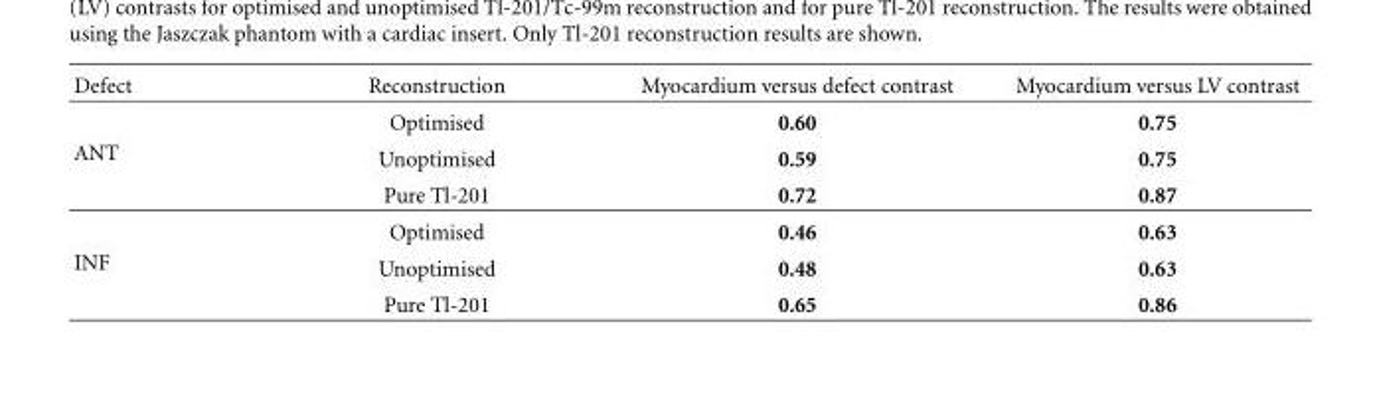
<table><thead><tr><td>Defect</td><td>Reconstruction</td><td>Myocardium versus defect contrast</td><td>Myocardium versus LV contrast</td></tr></thead><tbody><tr><td rowspan="3">ANT</td><td>Optimised</td><td>0.60</td><td>0.75</td></tr><tr><td>Unoptimised</td><td>0.59</td><td>0.75</td></tr><tr><td>Pure Tl-201</td><td>0.72</td><td>0.87</td></tr><tr><td rowspan="3">INF</td><td>Optimised</td><td>0.46</td><td>0.63</td></tr><tr><td>Unoptimised</td><td>0.48</td><td>0.63</td></tr><tr><td>Pure Tl-201</td><td>0.65</td><td>0.86</td></tr></tbody></table>